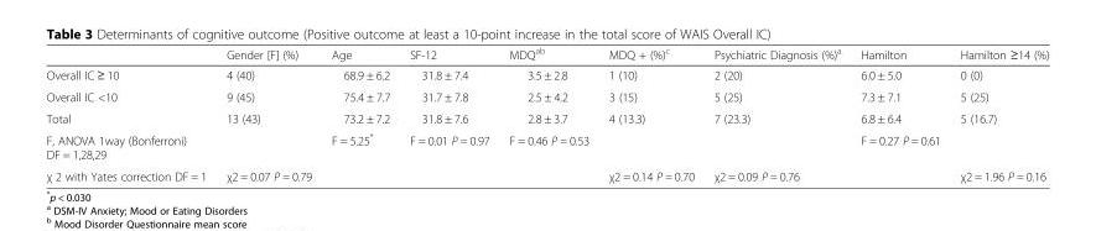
<table><thead><tr><td></td><td>Gender [F] (%)</td><td>Age</td><td>SF-12</td><td>MDQ<sup>ab</sup></td><td>MDQ + (%)<sup>c</sup></td><td>Psychiatric Diagnosis (%)<sup>a</sup></td><td>Hamilton</td><td>Hamilton ≥14 (%)</td></tr></thead><tbody><tr><td>Overall IC ≥ 10</td><td>4 (40)</td><td>68.9 ± 6.2</td><td>31.8 ± 7.4</td><td>3.5 ± 2.8</td><td>1 (10)</td><td>2 (20)</td><td>6.0 ± 5.0</td><td>0 (0)</td></tr><tr><td>Overall IC &lt;10</td><td>9 (45)</td><td>75.4 ± 7.7</td><td>31.7 ± 7.8</td><td>2.5 ± 4.2</td><td>3 (15)</td><td>5 (25)</td><td>7.3 ± 7.1</td><td>5 (25)</td></tr><tr><td>Total</td><td>13 (43)</td><td>73.2 ± 7.2</td><td>31.8 ± 7.6</td><td>2.8 ± 3.7</td><td>4 (13.3)</td><td>7 (23.3)</td><td>6.8 ± 6.4</td><td>5 (16.7)</td></tr><tr><td>F, ANOVA 1way (Bonferroni) DF = 1,28,29</td><td></td><td>F = 5.25*</td><td>F = 0.01 P = 0.97</td><td>F = 0.46 P = 0.53</td><td></td><td></td><td>F = 0.27 P = 0.61</td><td></td></tr><tr><td>χ 2 with Yates correction DF = 1</td><td>χ2 = 0.07 P = 0.79</td><td></td><td></td><td></td><td>χ2 = 0.14 P = 0.70</td><td>χ2 = 0.09 P = 0.76</td><td></td><td>χ2 = 1.96 P = 0.16</td></tr></tbody></table>